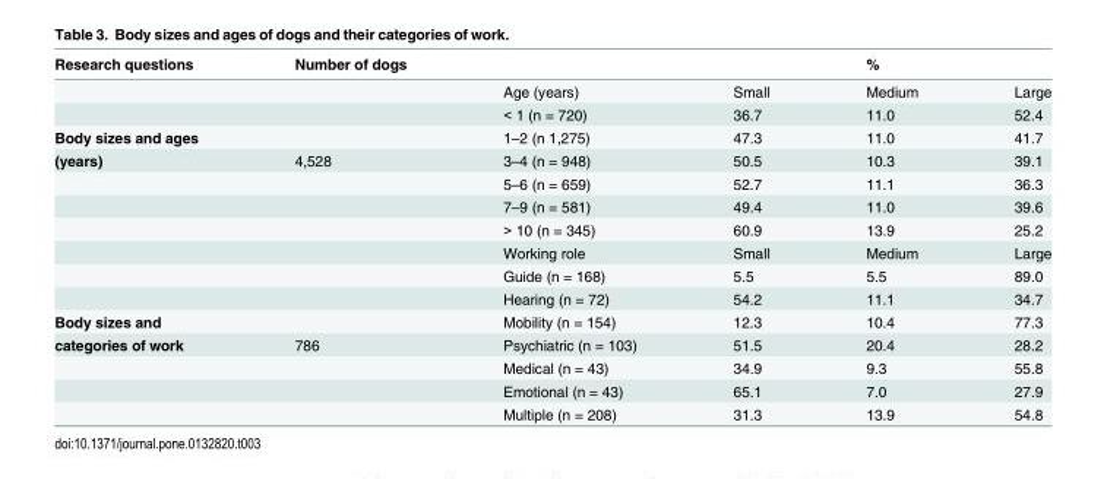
<table><thead><tr><td>Research questions</td><td>Number of dogs</td><td></td><td></td><td>%</td><td></td></tr></thead><tbody><tr><td></td><td></td><td>Age (years)</td><td>Small</td><td>Medium</td><td>Large</td></tr><tr><td></td><td></td><td>&lt; 1 (n = 720)</td><td>36.7</td><td>11.0</td><td>52.4</td></tr><tr><td>Body sizes and ages</td><td></td><td>1–2 (n 1,275)</td><td>47.3</td><td>11.0</td><td>41.7</td></tr><tr><td rowspan="7">(years)</td><td>4,528</td><td>3–4 (n = 948)</td><td>50.5</td><td>10.3</td><td>39.1</td></tr><tr><td></td><td>5–6 (n = 659)</td><td>52.7</td><td>11.1</td><td>36.3</td></tr><tr><td></td><td>7–9 (n = 581)</td><td>49.4</td><td>11.0</td><td>39.6</td></tr><tr><td></td><td>&gt; 10 (n = 345)</td><td>60.9</td><td>13.9</td><td>25.2</td></tr><tr><td></td><td>Working role</td><td>Small</td><td>Medium</td><td>Large</td></tr><tr><td></td><td>Guide (n = 168)</td><td>5.5</td><td>5.5</td><td>89.0</td></tr><tr><td></td><td>Hearing (n = 72)</td><td>54.2</td><td>11.1</td><td>34.7</td></tr><tr><td>Body sizes and</td><td></td><td>Mobility (n = 154)</td><td>12.3</td><td>10.4</td><td>77.3</td></tr><tr><td rowspan="4">categories of work</td><td>786</td><td>Psychiatric (n = 103)</td><td>51.5</td><td>20.4</td><td>28.2</td></tr><tr><td></td><td>Medical (n = 43)</td><td>34.9</td><td>9.3</td><td>55.8</td></tr><tr><td></td><td>Emotional (n = 43)</td><td>65.1</td><td>7.0</td><td>27.9</td></tr><tr><td></td><td>Multiple (n = 208)</td><td>31.3</td><td>13.9</td><td>54.8</td></tr></tbody></table>